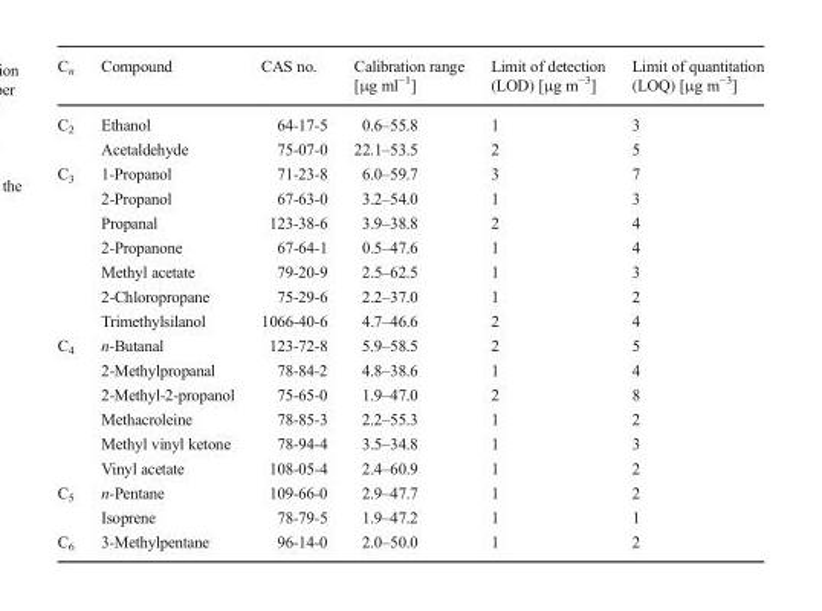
<table><thead><tr><td>C<sub>n</sub></td><td>Compound</td><td>CAS no.</td><td>Calibration range [μg ml<sup>−1</sup>]</td><td>Limit of detection (LOD) [μg m<sup>−3</sup>]</td><td>Limit of quantitation (LOQ) [μg m<sup>−3</sup>]</td></tr></thead><tbody><tr><td rowspan="2">C<sub>2</sub></td><td>Ethanol</td><td>64-17-5</td><td>0.6–55.8</td><td>1</td><td>3</td></tr><tr><td>Acetaldehyde</td><td>75-07-0</td><td>22.1–53.5</td><td>2</td><td>5</td></tr><tr><td rowspan="7">C<sub>3</sub></td><td>1-Propanol</td><td>71-23-8</td><td>6.0–59.7</td><td>3</td><td>7</td></tr><tr><td>2-Propanol</td><td>67-63-0</td><td>3.2–54.0</td><td>1</td><td>3</td></tr><tr><td>Propanal</td><td>123-38-6</td><td>3.9–38.8</td><td>2</td><td>4</td></tr><tr><td>2-Propanone</td><td>67-64-1</td><td>0.5–47.6</td><td>1</td><td>4</td></tr><tr><td>Methyl acetate</td><td>79-20-9</td><td>2.5–62.5</td><td>1</td><td>3</td></tr><tr><td>2-Chloropropane</td><td>75-29-6</td><td>2.2–37.0</td><td>1</td><td>2</td></tr><tr><td>Trimethylsilanol</td><td>1066-40-6</td><td>4.7–46.6</td><td>2</td><td>4</td></tr><tr><td rowspan="6">C<sub>4</sub></td><td>n-Butanal</td><td>123-72-8</td><td>5.9–58.5</td><td>2</td><td>5</td></tr><tr><td>2-Methylpropanal</td><td>78-84-2</td><td>4.8–38.6</td><td>1</td><td>4</td></tr><tr><td>2-Methyl-2-propanol</td><td>75-65-0</td><td>1.9–47.0</td><td>2</td><td>8</td></tr><tr><td>Methacroleine</td><td>78-85-3</td><td>2.2–55.3</td><td>1</td><td>2</td></tr><tr><td>Methyl vinyl ketone</td><td>78-94-4</td><td>3.5–34.8</td><td>1</td><td>3</td></tr><tr><td>Vinyl acetate</td><td>108-05-4</td><td>2.4–60.9</td><td>1</td><td>2</td></tr><tr><td rowspan="2">C<sub>5</sub></td><td>n-Pentane</td><td>109-66-0</td><td>2.9–47.7</td><td>1</td><td>2</td></tr><tr><td>Isoprene</td><td>78-79-5</td><td>1.9–47.2</td><td>1</td><td>1</td></tr><tr><td>C<sub>6</sub></td><td>3-Methylpentane</td><td>96-14-0</td><td>2.0–50.0</td><td>1</td><td>2</td></tr></tbody></table>